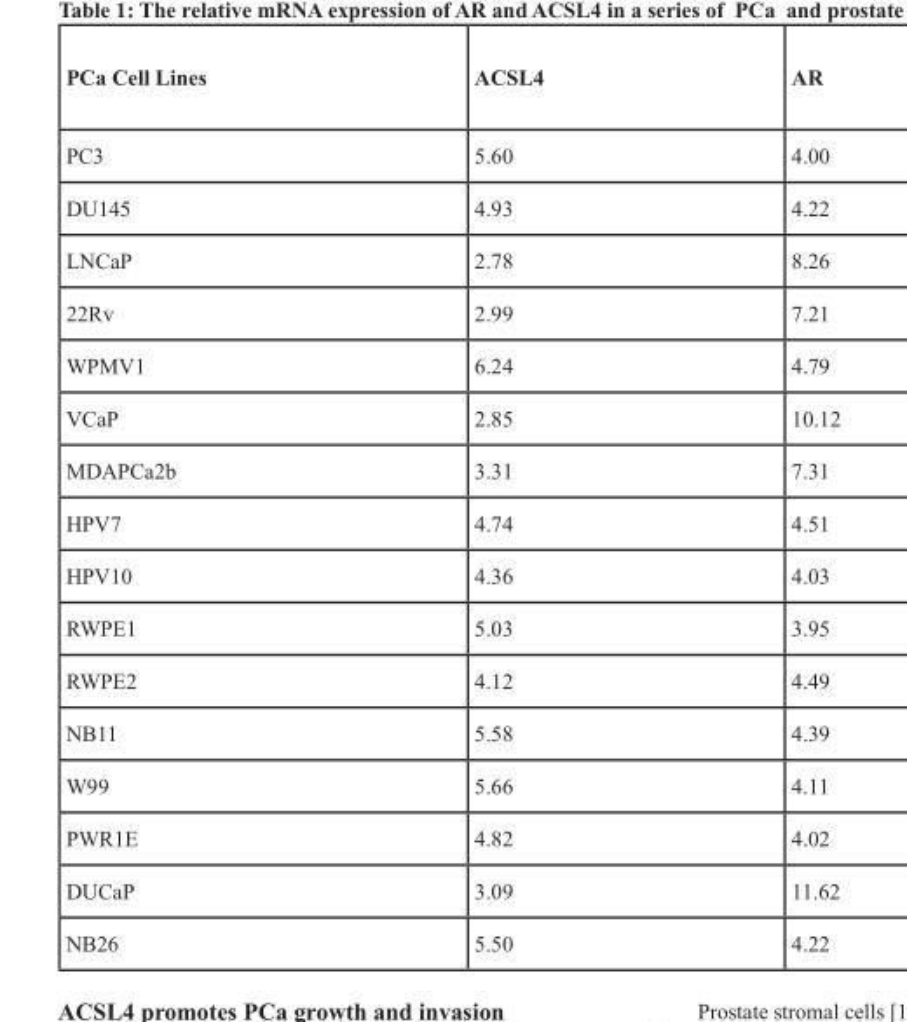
<table><thead><tr><td>PCa Cell Lines</td><td>ACSL4</td><td>AR</td></tr></thead><tbody><tr><td>PC3</td><td>5.60</td><td>4.00</td></tr><tr><td>DU145</td><td>4.93</td><td>4.22</td></tr><tr><td>LNCaP</td><td>2.78</td><td>8.26</td></tr><tr><td>22Rv</td><td>2.99</td><td>7.21</td></tr><tr><td>WPMV1</td><td>6.24</td><td>4.79</td></tr><tr><td>VCaP</td><td>2.85</td><td>10.12</td></tr><tr><td>MDAPCa2b</td><td>3.31</td><td>7.31</td></tr><tr><td>HPV7</td><td>4.74</td><td>4.51</td></tr><tr><td>HPV10</td><td>4.36</td><td>4.03</td></tr><tr><td>RWPE1</td><td>5.03</td><td>3.95</td></tr><tr><td>RWPE2</td><td>4.12</td><td>4.49</td></tr><tr><td>NB11</td><td>5.58</td><td>4.39</td></tr><tr><td>W99</td><td>5.66</td><td>4.11</td></tr><tr><td>PWR1E</td><td>4.82</td><td>4.02</td></tr><tr><td>DUCaP</td><td>3.09</td><td>11.62</td></tr><tr><td>NB26</td><td>5.50</td><td>4.22</td></tr></tbody></table>